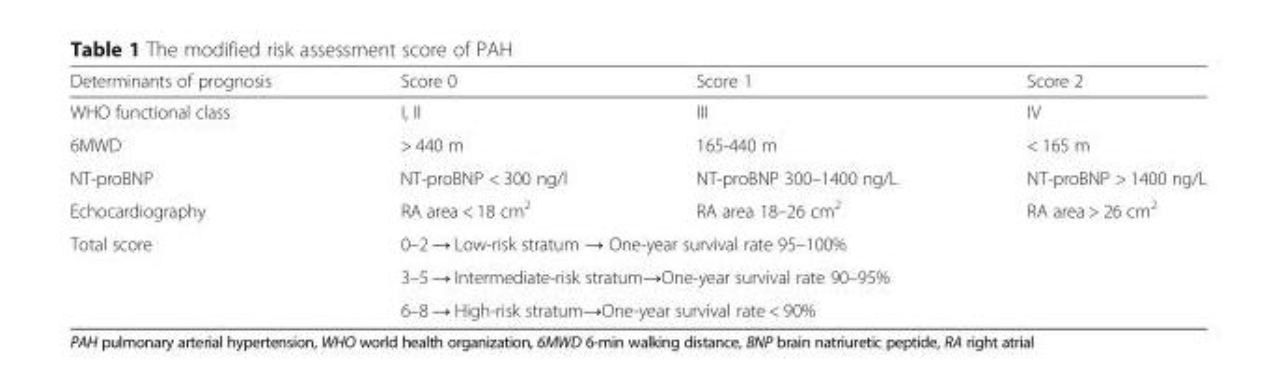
<table><thead><tr><td>Determinants of prognosis</td><td>Score 0</td><td>Score 1</td><td>Score 2</td></tr></thead><tbody><tr><td>WHO functional class</td><td>I, II</td><td>III</td><td>IV</td></tr><tr><td>6MWD</td><td>&gt; 440 m</td><td>165-440 m</td><td>&lt; 165 m</td></tr><tr><td>NT-proBNP</td><td>NT-proBNP &lt; 300 ng/l</td><td>NT-proBNP 300–1400 ng/L</td><td>NT-proBNP &gt; 1400 ng/L</td></tr><tr><td>Echocardiography</td><td>RA area &lt; 18 cm<sup>2</sup></td><td>RA area 18–26 cm<sup>2</sup></td><td>RA area &gt; 26 cm<sup>2</sup></td></tr><tr><td rowspan="3">Total score</td><td colspan="3">0–2 → Low-risk stratum → One-year survival rate 95–100%</td></tr><tr><td colspan="3">3–5 → Intermediate-risk stratum→One-year survival rate 90–95%</td></tr><tr><td colspan="3">6–8 → High-risk stratum→One-year survival rate &lt; 90%</td></tr></tbody></table>